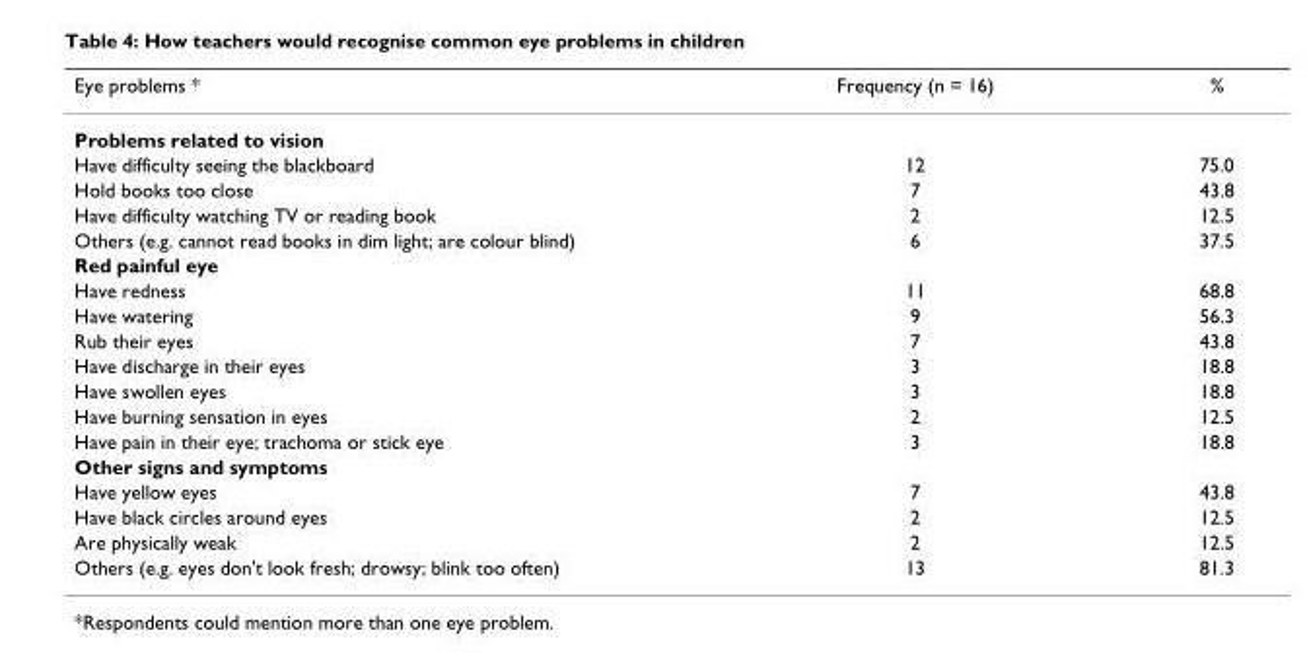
<table><thead><tr><td>Eye problems *</td><td>Frequency (n = 16)</td><td>%</td></tr></thead><tbody><tr><td colspan="3">Problems related to vision</td></tr><tr><td>Have difficulty seeing the blackboard</td><td>12</td><td>75.0</td></tr><tr><td>Hold books too close</td><td>7</td><td>43.8</td></tr><tr><td>Have difficulty watching TV or reading book</td><td>2</td><td>12.5</td></tr><tr><td>Others (e.g. cannot read books in dim light; are colour blind)</td><td>6</td><td>37.5</td></tr><tr><td colspan="3">Red painful eye</td></tr><tr><td>Have redness</td><td>11</td><td>68.8</td></tr><tr><td>Have watering</td><td>9</td><td>56.3</td></tr><tr><td>Rub their eyes</td><td>7</td><td>43.8</td></tr><tr><td>Have discharge in their eyes</td><td>3</td><td>18.8</td></tr><tr><td>Have swollen eyes</td><td>3</td><td>18.8</td></tr><tr><td>Have burning sensation in eyes</td><td>2</td><td>12.5</td></tr><tr><td>Have pain in their eye; trachoma or stick eye</td><td>3</td><td>18.8</td></tr><tr><td colspan="3">Other signs and symptoms</td></tr><tr><td>Have yellow eyes</td><td>7</td><td>43.8</td></tr><tr><td>Have black circles around eyes</td><td>2</td><td>12.5</td></tr><tr><td>Are physically weak</td><td>2</td><td>12.5</td></tr><tr><td>Others (e.g. eyes don&#x27;t look fresh; drowsy; blink too often)</td><td>13</td><td>81.3</td></tr></tbody></table>